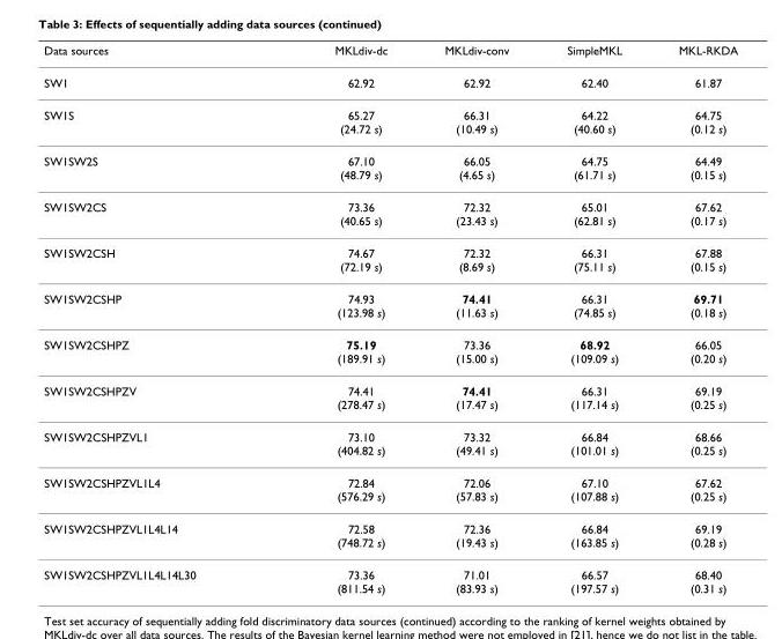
<table><thead><tr><td>Data sources</td><td>MKLdiv-dc</td><td>MKLdiv-conv</td><td>SimpleMKL</td><td>MKL-RKDA</td></tr></thead><tbody><tr><td>SW1</td><td>62.92</td><td>62.92</td><td>62.40</td><td>61.87</td></tr><tr><td>SW1S</td><td>65.27 (24.72 s)</td><td>66.31 (10.49 s)</td><td>64.22 (40.60 s)</td><td>64.75 (0.12 s)</td></tr><tr><td>SW1SW2S</td><td>67.10 (48.79 s)</td><td>66.05 (4.65 s)</td><td>64.75 (61.71 s)</td><td>64.49 (0.15 s)</td></tr><tr><td>SW1SW2CS</td><td>73.36 (40.65 s)</td><td>72.32 (23.43 s)</td><td>65.01 (62.81 s)</td><td>67.62 (0.17 s)</td></tr><tr><td>SW1SW2CSH</td><td>74.67 (72.19 s)</td><td>72.32 (8.69 s)</td><td>66.31 (75.11 s)</td><td>67.88 (0.15 s)</td></tr><tr><td>SW1SW2CSHP</td><td>74.93 (123.98 s)</td><td>74.41 (11.63 s)</td><td>66.31 (74.85 s)</td><td>69.71 (0.18 s)</td></tr><tr><td>SW1SW2CSHPZ</td><td>75.19 (189.91 s)</td><td>73.36 (15.00 s)</td><td>68.92 (109.09 s)</td><td>66.05 (0.20 s)</td></tr><tr><td>SW1SW2CSHPZV</td><td>74.41 (278.47 s)</td><td>74.41 (17.47 s)</td><td>66.31 (117.14 s)</td><td>69.19 (0.25 s)</td></tr><tr><td>SW1SW2CSHPZVL1</td><td>73.10 (404.82 s)</td><td>73.32 (49.41 s)</td><td>66.84 (101.01 s)</td><td>68.66 (0.25 s)</td></tr><tr><td>SW1SW2CSHPZVL1L4</td><td>72.84 (576.29 s)</td><td>72.06 (57.83 s)</td><td>67.10 (107.88 s)</td><td>67.62 (0.25 s)</td></tr><tr><td>SW1SW2CSHPZVL1L4L14</td><td>72.58 (748.72 s)</td><td>72.36 (19.43 s)</td><td>66.84 (163.85 s)</td><td>69.19 (0.28 s)</td></tr><tr><td>SW1SW2CSHPZVL1L4L14L30</td><td>73.36 (811.54 s)</td><td>71.01 (83.93 s)</td><td>66.57 (197.57 s)</td><td>68.40 (0.31 s)</td></tr></tbody></table>